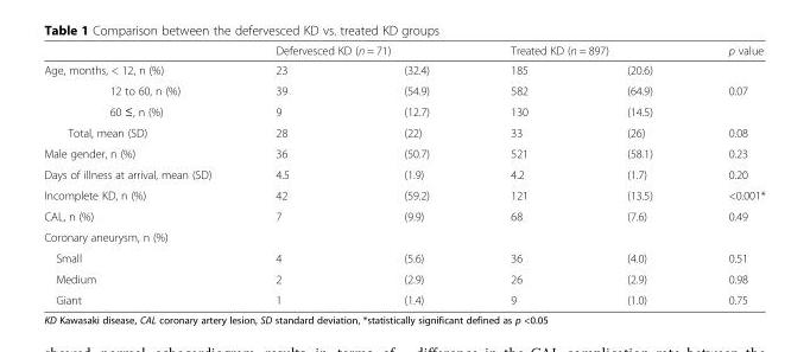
<table><thead><tr><td rowspan="2">Age, months, &lt; 12, n (%)</td><td colspan="2">Defervesced KD (n = 71)</td><td colspan="2">Treated KD (n = 897)</td><td rowspan="2">p value</td></tr><tr><td>23</td><td>(32.4)</td><td>185</td><td>(20.6)</td></tr></thead><tbody><tr><td>12 to 60, n (%)</td><td>39</td><td>(54.9)</td><td>582</td><td>(64.9)</td><td>0.07</td></tr><tr><td>60 ≤, n (%)</td><td>9</td><td>(12.7)</td><td>130</td><td>(14.5)</td><td></td></tr><tr><td>Total, mean (SD)</td><td>28</td><td>(22)</td><td>33</td><td>(26)</td><td>0.08</td></tr><tr><td>Male gender, n (%)</td><td>36</td><td>(50.7)</td><td>521</td><td>(58.1)</td><td>0.23</td></tr><tr><td>Days of illness at arrival, mean (SD)</td><td>4.5</td><td>(1.9)</td><td>4.2</td><td>(1.7)</td><td>0.20</td></tr><tr><td>Incomplete KD, n (%)</td><td>42</td><td>(59.2)</td><td>121</td><td>(13.5)</td><td>&lt;0.001*</td></tr><tr><td>CAL, n (%)</td><td>7</td><td>(9.9)</td><td>68</td><td>(7.6)</td><td>0.49</td></tr><tr><td colspan="6">Coronary aneurysm, n (%)</td></tr><tr><td>Small</td><td>4</td><td>(5.6)</td><td>36</td><td>(4.0)</td><td>0.51</td></tr><tr><td>Medium</td><td>2</td><td>(2.9)</td><td>26</td><td>(2.9)</td><td>0.98</td></tr><tr><td>Giant</td><td>1</td><td>(1.4)</td><td>9</td><td>(1.0)</td><td>0.75</td></tr></tbody></table>